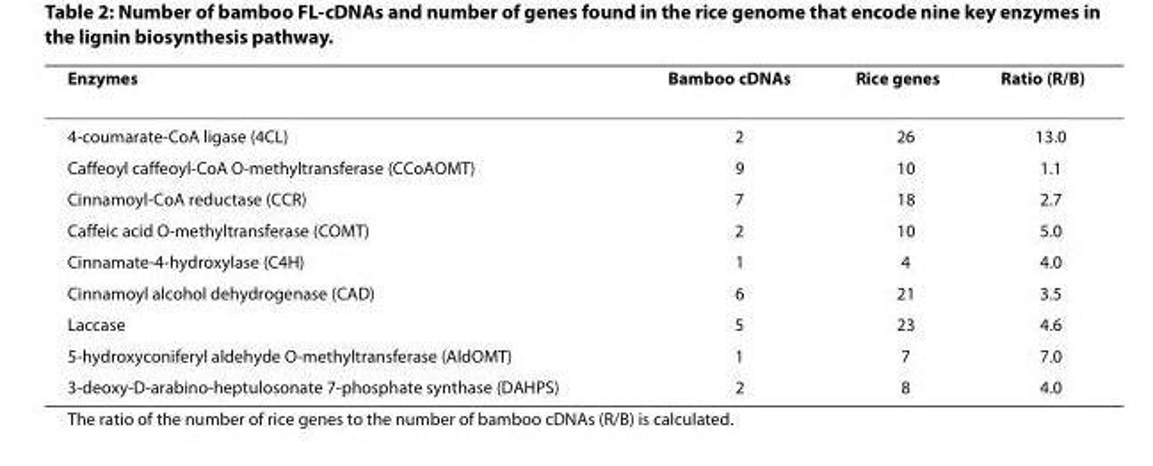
<table><thead><tr><td>Enzymes</td><td>Bamboo cDNAs</td><td>Rice genes</td><td>Ratio (R/B)</td></tr></thead><tbody><tr><td>4-coumarate-CoA ligase (4CL)</td><td>2</td><td>26</td><td>13.0</td></tr><tr><td>Caffeoyl caffeoyl-CoA O-methyltransferase (CCoAOMT)</td><td>9</td><td>10</td><td>1.1</td></tr><tr><td>Cinnamoyl-CoA reductase (CCR)</td><td>7</td><td>18</td><td>2.7</td></tr><tr><td>Caffeic acid O-methyltransferase (COMT)</td><td>2</td><td>10</td><td>5.0</td></tr><tr><td>Cinnamate-4-hydroxylase (C4H)</td><td>1</td><td>4</td><td>4.0</td></tr><tr><td>Cinnamoyl alcohol dehydrogenase (CAD)</td><td>6</td><td>21</td><td>3.5</td></tr><tr><td>Laccase</td><td>5</td><td>23</td><td>4.6</td></tr><tr><td>5-hydroxyconiferyl aldehyde O-methyltransferase (AldOMT)</td><td>1</td><td>7</td><td>7.0</td></tr><tr><td>3-deoxy-D-arabino-heptulosonate 7-phosphate synthase (DAHPS)</td><td>2</td><td>8</td><td>4.0</td></tr></tbody></table>